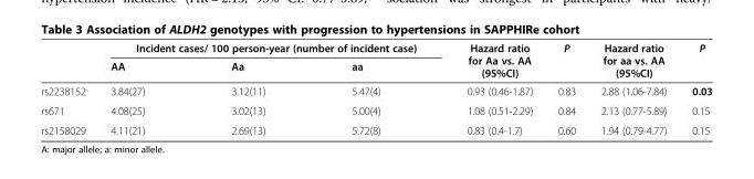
<table><thead><tr><td rowspan="2"></td><td colspan="3">Incident cases/ 100 person-year (number of incident case)</td><td rowspan="2">Hazard ratio for Aa vs. AA (95%CI)</td><td rowspan="2">P</td><td rowspan="2">Hazard ratio for aa vs. AA (95%CI)</td><td rowspan="2">P</td></tr><tr><td>AA</td><td>Aa</td><td>aa</td></tr></thead><tbody><tr><td>rs2238152</td><td>3.84(27)</td><td>3.12(11)</td><td>5.47(4)</td><td>0.93 (0.46-1.87)</td><td>0.83</td><td>2.88 (1.06-7.84)</td><td>0.03</td></tr><tr><td>rs671</td><td>4.08(25)</td><td>3.02(13)</td><td>5.00(4)</td><td>1.08 (0.51-2.29)</td><td>0.84</td><td>2.13 (0.77-5.89)</td><td>0.15</td></tr><tr><td>rs2158029</td><td>4.11(21)</td><td>2.69(13)</td><td>5.72(8)</td><td>0.83 (0.4-1.7)</td><td>0.60</td><td>1.94 (0.79-4.77)</td><td>0.15</td></tr></tbody></table>